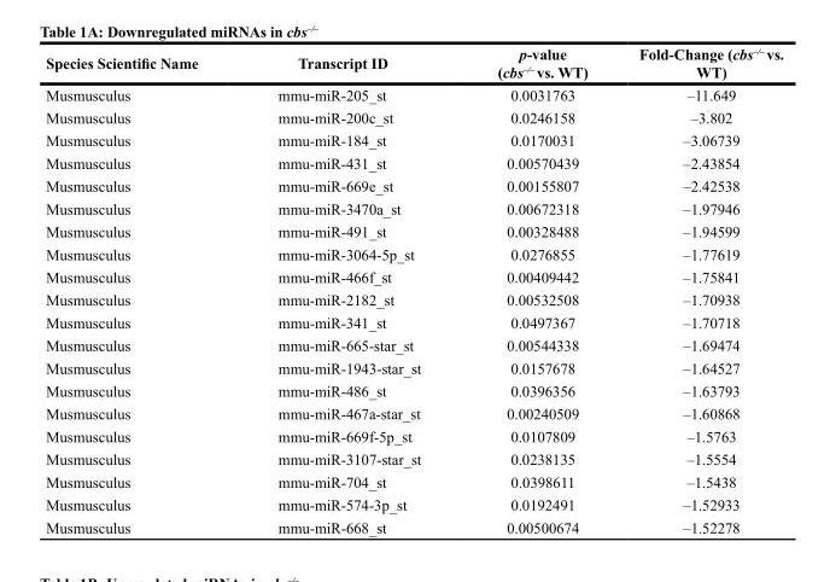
<table><thead><tr><td>Species Scientific Name</td><td>Transcript ID</td><td>p-value (cbs<sup>–/–</sup> vs. WT)</td><td>Fold-Change (cbs<sup>–/–</sup> vs. WT)</td></tr></thead><tbody><tr><td>Musmusculus</td><td>mmu-miR-205_st</td><td>0.0031763</td><td>–11.649</td></tr><tr><td>Musmusculus</td><td>mmu-miR-200c_st</td><td>0.0246158</td><td>–3.802</td></tr><tr><td>Musmusculus</td><td>mmu-miR-184_st</td><td>0.0170031</td><td>–3.06739</td></tr><tr><td>Musmusculus</td><td>mmu-miR-431_st</td><td>0.00570439</td><td>–2.43854</td></tr><tr><td>Musmusculus</td><td>mmu-miR-669e_st</td><td>0.00155807</td><td>–2.42538</td></tr><tr><td>Musmusculus</td><td>mmu-miR-3470a_st</td><td>0.00672318</td><td>–1.97946</td></tr><tr><td>Musmusculus</td><td>mmu-miR-491_st</td><td>0.00328488</td><td>–1.94599</td></tr><tr><td>Musmusculus</td><td>mmu-miR-3064-5p_st</td><td>0.0276855</td><td>–1.77619</td></tr><tr><td>Musmusculus</td><td>mmu-miR-466f_st</td><td>0.00409442</td><td>–1.75841</td></tr><tr><td>Musmusculus</td><td>mmu-miR-2182_st</td><td>0.00532508</td><td>–1.70938</td></tr><tr><td>Musmusculus</td><td>mmu-miR-341_st</td><td>0.0497367</td><td>–1.70718</td></tr><tr><td>Musmusculus</td><td>mmu-miR-665-star_st</td><td>0.00544338</td><td>–1.69474</td></tr><tr><td>Musmusculus</td><td>mmu-miR-1943-star_st</td><td>0.0157678</td><td>–1.64527</td></tr><tr><td>Musmusculus</td><td>mmu-miR-486_st</td><td>0.0396356</td><td>–1.63793</td></tr><tr><td>Musmusculus</td><td>mmu-miR-467a-star_st</td><td>0.00240509</td><td>–1.60868</td></tr><tr><td>Musmusculus</td><td>mmu-miR-669f-5p_st</td><td>0.0107809</td><td>–1.5763</td></tr><tr><td>Musmusculus</td><td>mmu-miR-3107-star_st</td><td>0.0238135</td><td>–1.5554</td></tr><tr><td>Musmusculus</td><td>mmu-miR-704_st</td><td>0.0398611</td><td>–1.5438</td></tr><tr><td>Musmusculus</td><td>mmu-miR-574-3p_st</td><td>0.0192491</td><td>–1.52933</td></tr><tr><td>Musmusculus</td><td>mmu-miR-668_st</td><td>0.00500674</td><td>–1.52278</td></tr></tbody></table>